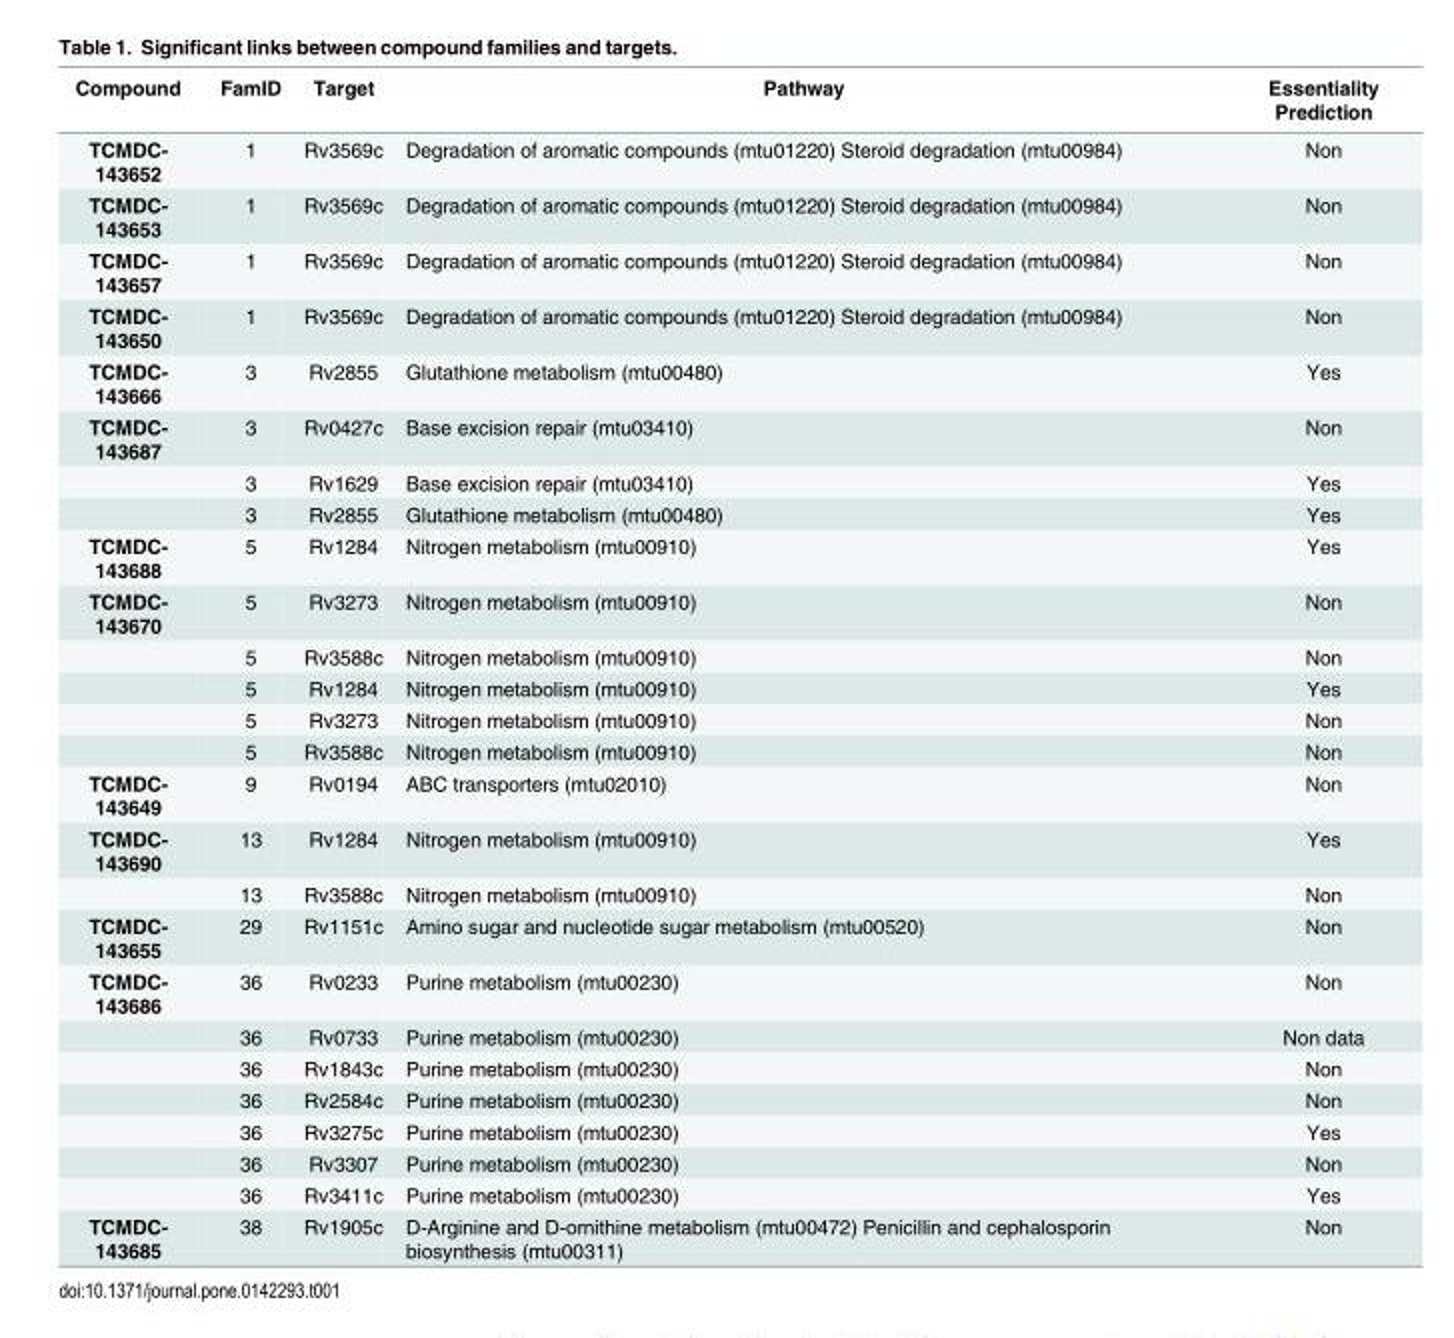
<table><thead><tr><td>Compound</td><td>FamID</td><td>Target</td><td>Pathway</td><td>Essentiality Prediction</td></tr></thead><tbody><tr><td>TCMDC- 143652</td><td>1</td><td>Rv3569c</td><td>Degradation of aromatic compounds (mtu01220) Steroid degradation (mtu00984)</td><td>Non</td></tr><tr><td>TCMDC- 143653</td><td>1</td><td>Rv3569c</td><td>Degradation of aromatic compounds (mtu01220) Steroid degradation (mtu00984)</td><td>Non</td></tr><tr><td>TCMDC- 143657</td><td>1</td><td>Rv3569c</td><td>Degradation of aromatic compounds (mtu01220) Steroid degradation (mtu00984)</td><td>Non</td></tr><tr><td>TCMDC- 143650</td><td>1</td><td>Rv3569c</td><td>Degradation of aromatic compounds (mtu01220) Steroid degradation (mtu00984)</td><td>Non</td></tr><tr><td>TCMDC- 143666</td><td>3</td><td>Rv2855</td><td>Glutathione metabolism (mtu00480)</td><td>Yes</td></tr><tr><td rowspan="3">TCMDC- 143687</td><td>3</td><td>Rv0427c</td><td>Base excision repair (mtu03410)</td><td>Non</td></tr><tr><td>3</td><td>Rv1629</td><td>Base excision repair (mtu03410)</td><td>Yes</td></tr><tr><td>3</td><td>Rv2855</td><td>Glutathione metabolism (mtu00480)</td><td>Yes</td></tr><tr><td>TCMDC- 143688</td><td>5</td><td>Rv1284</td><td>Nitrogen metabolism (mtu00910)</td><td>Yes</td></tr><tr><td rowspan="5">TCMDC- 143670</td><td>5</td><td>Rv3273</td><td>Nitrogen metabolism (mtu00910)</td><td>Non</td></tr><tr><td>5</td><td>Rv3588c</td><td>Nitrogen metabolism (mtu00910)</td><td>Non</td></tr><tr><td>5</td><td>Rv1284</td><td>Nitrogen metabolism (mtu00910)</td><td>Yes</td></tr><tr><td>5</td><td>Rv3273</td><td>Nitrogen metabolism (mtu00910)</td><td>Non</td></tr><tr><td>5</td><td>Rv3588c</td><td>Nitrogen metabolism (mtu00910)</td><td>Non</td></tr><tr><td>TCMDC- 143649</td><td>9</td><td>Rv0194</td><td>ABC transporters (mtu02010)</td><td>Non</td></tr><tr><td rowspan="2">TCMDC- 143690</td><td>13</td><td>Rv1284</td><td>Nitrogen metabolism (mtu00910)</td><td>Yes</td></tr><tr><td>13</td><td>Rv3588c</td><td>Nitrogen metabolism (mtu00910)</td><td>Non</td></tr><tr><td>TCMDC- 143655</td><td>29</td><td>Rv1151c</td><td>Amino sugar and nucleotide sugar metabolism (mtu00520)</td><td>Non</td></tr><tr><td rowspan="7">TCMDC- 143686</td><td>36</td><td>Rv0233</td><td>Purine metabolism (mtu00230)</td><td>Non</td></tr><tr><td>36</td><td>Rv0733</td><td>Purine metabolism (mtu00230)</td><td>Non data</td></tr><tr><td>36</td><td>Rv1843c</td><td>Purine metabolism (mtu00230)</td><td>Non</td></tr><tr><td>36</td><td>Rv2584c</td><td>Purine metabolism (mtu00230)</td><td>Non</td></tr><tr><td>36</td><td>Rv3275c</td><td>Purine metabolism (mtu00230)</td><td>Yes</td></tr><tr><td>36</td><td>Rv3307</td><td>Purine metabolism (mtu00230)</td><td>Non</td></tr><tr><td>36</td><td>Rv3411c</td><td>Purine metabolism (mtu00230)</td><td>Yes</td></tr><tr><td>TCMDC- 143685</td><td>38</td><td>Rv1905c</td><td>D-Arginine and D-ornithine metabolism (mtu00472) Penicillin and cephalosporin biosynthesis (mtu00311)</td><td>Non</td></tr></tbody></table>